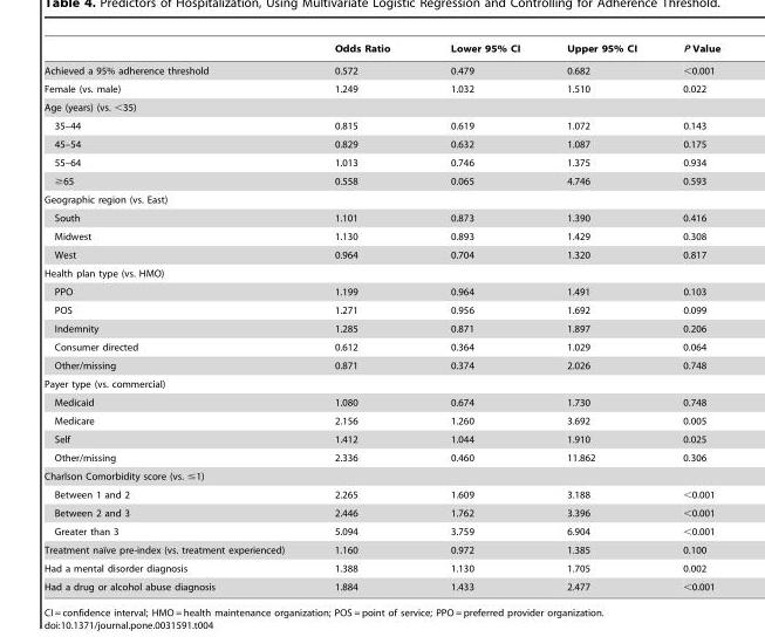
<table><thead><tr><td></td><td>Odds Ratio</td><td>Lower 95% CI</td><td>Upper 95% CI</td><td>P Value</td></tr></thead><tbody><tr><td>Achieved a 95% adherence threshold</td><td>0.572</td><td>0.479</td><td>0.682</td><td>&lt;0.001</td></tr><tr><td>Female (vs. male)</td><td>1.249</td><td>1.032</td><td>1.510</td><td>0.022</td></tr><tr><td colspan="5">Age (years) (vs. &lt;35)</td></tr><tr><td>35–44</td><td>0.815</td><td>0.619</td><td>1.072</td><td>0.143</td></tr><tr><td>45–54</td><td>0.829</td><td>0.632</td><td>1.087</td><td>0.175</td></tr><tr><td>55–64</td><td>1.013</td><td>0.746</td><td>1.375</td><td>0.934</td></tr><tr><td>≥65</td><td>0.558</td><td>0.065</td><td>4.746</td><td>0.593</td></tr><tr><td colspan="5">Geographic region (vs. East)</td></tr><tr><td>South</td><td>1.101</td><td>0.873</td><td>1.390</td><td>0.416</td></tr><tr><td>Midwest</td><td>1.130</td><td>0.893</td><td>1.429</td><td>0.308</td></tr><tr><td>West</td><td>0.964</td><td>0.704</td><td>1.320</td><td>0.817</td></tr><tr><td colspan="5">Health plan type (vs. HMO)</td></tr><tr><td>PPO</td><td>1.199</td><td>0.964</td><td>1.491</td><td>0.103</td></tr><tr><td>POS</td><td>1.271</td><td>0.956</td><td>1.692</td><td>0.099</td></tr><tr><td>Indemnity</td><td>1.285</td><td>0.871</td><td>1.897</td><td>0.206</td></tr><tr><td>Consumer directed</td><td>0.612</td><td>0.364</td><td>1.029</td><td>0.064</td></tr><tr><td>Other/missing</td><td>0.871</td><td>0.374</td><td>2.026</td><td>0.748</td></tr><tr><td colspan="5">Payer type (vs. commercial)</td></tr><tr><td>Medicaid</td><td>1.080</td><td>0.674</td><td>1.730</td><td>0.748</td></tr><tr><td>Medicare</td><td>2.156</td><td>1.260</td><td>3.692</td><td>0.005</td></tr><tr><td>Self</td><td>1.412</td><td>1.044</td><td>1.910</td><td>0.025</td></tr><tr><td>Other/missing</td><td>2.336</td><td>0.460</td><td>11.862</td><td>0.306</td></tr><tr><td colspan="5">Charlson Comorbidity score (vs. ≤1)</td></tr><tr><td>Between 1 and 2</td><td>2.265</td><td>1.609</td><td>3.188</td><td>&lt;0.001</td></tr><tr><td>Between 2 and 3</td><td>2.446</td><td>1.762</td><td>3.396</td><td>&lt;0.001</td></tr><tr><td>Greater than 3</td><td>5.094</td><td>3.759</td><td>6.904</td><td>&lt;0.001</td></tr><tr><td>Treatment naı¨ve pre-index (vs. treatment experienced)</td><td>1.160</td><td>0.972</td><td>1.385</td><td>0.100</td></tr><tr><td>Had a mental disorder diagnosis</td><td>1.388</td><td>1.130</td><td>1.705</td><td>0.002</td></tr><tr><td>Had a drug or alcohol abuse diagnosis</td><td>1.884</td><td>1.433</td><td>2.477</td><td>&lt;0.001</td></tr></tbody></table>